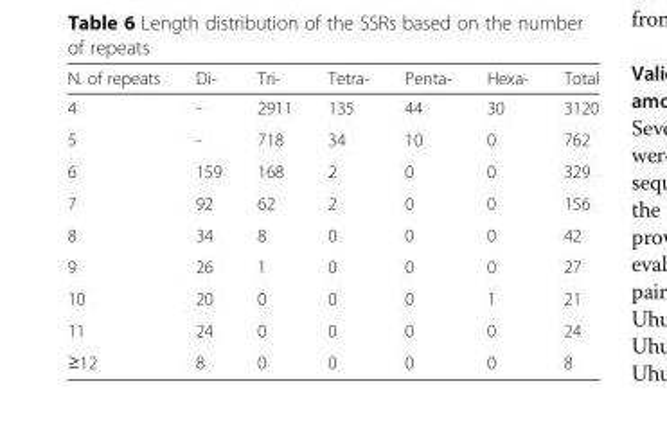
<table><thead><tr><td>N. of repeats</td><td>Di-</td><td>Tri-</td><td>Tetra-</td><td>Penta-</td><td>Hexa-</td><td>Total</td></tr></thead><tbody><tr><td>4</td><td>-</td><td>2911</td><td>135</td><td>44</td><td>30</td><td>3120</td></tr><tr><td>5</td><td>-</td><td>718</td><td>34</td><td>10</td><td>0</td><td>762</td></tr><tr><td>6</td><td>159</td><td>168</td><td>2</td><td>0</td><td>0</td><td>329</td></tr><tr><td>7</td><td>92</td><td>62</td><td>2</td><td>0</td><td>0</td><td>156</td></tr><tr><td>8</td><td>34</td><td>8</td><td>0</td><td>0</td><td>0</td><td>42</td></tr><tr><td>9</td><td>26</td><td>1</td><td>0</td><td>0</td><td>0</td><td>27</td></tr><tr><td>10</td><td>20</td><td>0</td><td>0</td><td>0</td><td>1</td><td>21</td></tr><tr><td>11</td><td>24</td><td>0</td><td>0</td><td>0</td><td>0</td><td>24</td></tr><tr><td>≥12</td><td>8</td><td>0</td><td>0</td><td>0</td><td>0</td><td>8</td></tr></tbody></table>